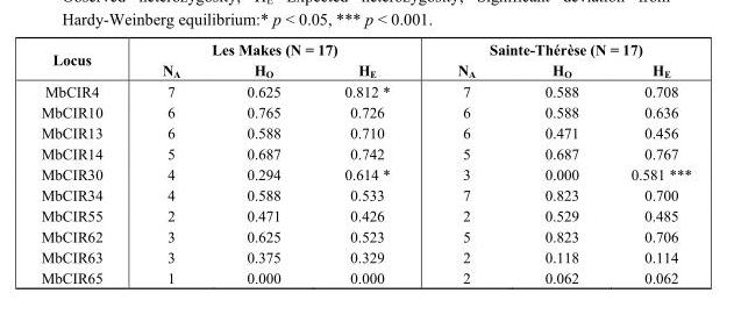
<table><thead><tr><td rowspan="2">Locus</td><td colspan="3">Les Makes (N = 17)</td><td colspan="3">Sainte-Thérèse (N = 17)</td></tr><tr><td>N<sub>A</sub></td><td>H<sub>O</sub></td><td>H<sub>E</sub></td><td>N<sub>A</sub></td><td>H<sub>O</sub></td><td>H<sub>E</sub></td></tr></thead><tbody><tr><td>MbCIR4</td><td>7</td><td>0.625</td><td>0.812 *</td><td>7</td><td>0.588</td><td>0.708</td></tr><tr><td>MbCIR10</td><td>6</td><td>0.765</td><td>0.726</td><td>6</td><td>0.588</td><td>0.636</td></tr><tr><td>MbCIR13</td><td>6</td><td>0.588</td><td>0.710</td><td>6</td><td>0.471</td><td>0.456</td></tr><tr><td>MbCIR14</td><td>5</td><td>0.687</td><td>0.742</td><td>5</td><td>0.687</td><td>0.767</td></tr><tr><td>MbCIR30</td><td>4</td><td>0.294</td><td>0.614 *</td><td>3</td><td>0.000</td><td>0.581 ***</td></tr><tr><td>MbCIR34</td><td>4</td><td>0.588</td><td>0.533</td><td>7</td><td>0.823</td><td>0.700</td></tr><tr><td>MbCIR55</td><td>2</td><td>0.471</td><td>0.426</td><td>2</td><td>0.529</td><td>0.485</td></tr><tr><td>MbCIR62</td><td>3</td><td>0.625</td><td>0.523</td><td>5</td><td>0.823</td><td>0.706</td></tr><tr><td>MbCIR63</td><td>3</td><td>0.375</td><td>0.329</td><td>2</td><td>0.118</td><td>0.114</td></tr><tr><td>MbCIR65</td><td>1</td><td>0.000</td><td>0.000</td><td>2</td><td>0.062</td><td>0.062</td></tr></tbody></table>